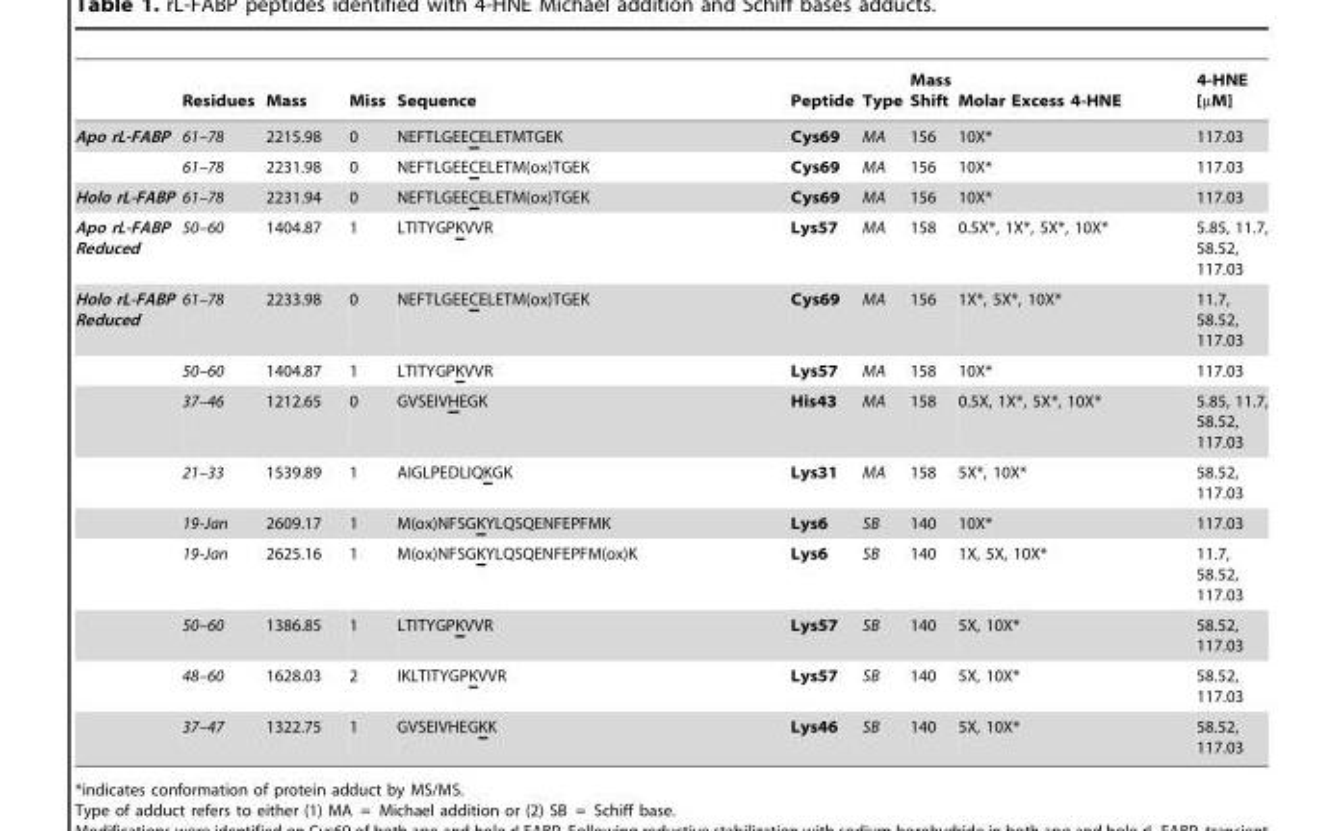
<table><thead><tr><td></td><td>Residues</td><td>Mass</td><td>Miss</td><td>Sequence</td><td>Peptide</td><td>Type</td><td>Mass Shift</td><td>Molar Excess 4-HNE</td><td>4-HNE [µM]</td></tr></thead><tbody><tr><td rowspan="2">Apo rL-FABP</td><td>61–78</td><td>2215.98</td><td>0</td><td>NEFTLGEECELETMTGEK</td><td>Cys69</td><td>MA</td><td>156</td><td>10X*</td><td>117.03</td></tr><tr><td>61–78</td><td>2231.98</td><td>0</td><td>NEFTLGEECELETM(ox)TGEK</td><td>Cys69</td><td>MA</td><td>156</td><td>10X*</td><td>117.03</td></tr><tr><td>Holo rL-FABP</td><td>61–78</td><td>2231.94</td><td>0</td><td>NEFTLGEECELETM(ox)TGEK</td><td>Cys69</td><td>MA</td><td>156</td><td>10X*</td><td>117.03</td></tr><tr><td>Apo rL-FABP Reduced</td><td>50–60</td><td>1404.87</td><td>1</td><td>LTITYGPKVVR</td><td>Lys57</td><td>MA</td><td>158</td><td>0.5X*, 1X*, 5X*, 10X*</td><td>5.85, 11.7, 58.52, 117.03</td></tr><tr><td rowspan="9">Holo rL-FABP Reduced</td><td>61–78</td><td>2233.98</td><td>0</td><td>NEFTLGEECELETM(ox)TGEK</td><td>Cys69</td><td>MA</td><td>156</td><td>1X*, 5X*, 10X*</td><td>11.7, 58.52, 117.03</td></tr><tr><td>50–60</td><td>1404.87</td><td>1</td><td>LTITYGPKVVR</td><td>Lys57</td><td>MA</td><td>158</td><td>10X*</td><td>117.03</td></tr><tr><td>37–46</td><td>1212.65</td><td>0</td><td>GVSEIVHEGK</td><td>His43</td><td>MA</td><td>158</td><td>0.5X, 1X*, 5X*, 10X*</td><td>5.85, 11.7, 58.52, 117.03</td></tr><tr><td>21–33</td><td>1539.89</td><td>1</td><td>AIGLPEDLIQKGK</td><td>Lys31</td><td>MA</td><td>158</td><td>5X*, 10X*</td><td>58.52, 117.03</td></tr><tr><td>19-Jan</td><td>2609.17</td><td>1</td><td>M(ox)NFSGKYLQSQENFEPFMK</td><td>Lys6</td><td>SB</td><td>140</td><td>10X*</td><td>117.03</td></tr><tr><td>19-Jan</td><td>2625.16</td><td>1</td><td>M(ox)NFSGKYLQSQENFEPFM(ox)K</td><td>Lys6</td><td>SB</td><td>140</td><td>1X, 5X, 10X*</td><td>11.7, 58.52, 117.03</td></tr><tr><td>50–60</td><td>1386.85</td><td>1</td><td>LTITYGPKVVR</td><td>Lys57</td><td>SB</td><td>140</td><td>5X, 10X*</td><td>58.52, 117.03</td></tr><tr><td>48–60</td><td>1628.03</td><td>2</td><td>IKLTITYGPKVVR</td><td>Lys57</td><td>SB</td><td>140</td><td>5X, 10X*</td><td>58.52, 117.03</td></tr><tr><td>37–47</td><td>1322.75</td><td>1</td><td>GVSEIVHEGKK</td><td>Lys46</td><td>SB</td><td>140</td><td>5X, 10X*</td><td>58.52, 117.03</td></tr></tbody></table>